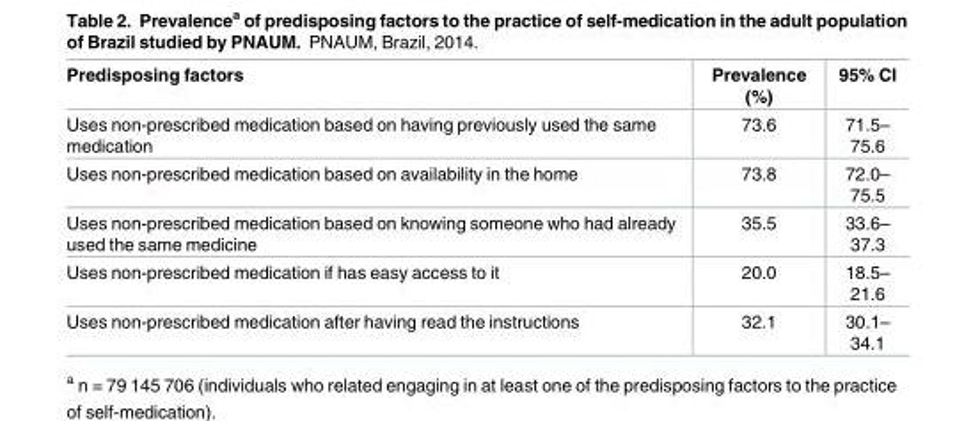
<table><thead><tr><td>Predisposing factors</td><td>Prevalence (%)</td><td>95% CI</td></tr></thead><tbody><tr><td>Uses non-prescribed medication based on having previously used the same medication</td><td>73.6</td><td>71.5– 75.6</td></tr><tr><td>Uses non-prescribed medication based on availability in the home</td><td>73.8</td><td>72.0– 75.5</td></tr><tr><td>Uses non-prescribed medication based on knowing someone who had already used the same medicine</td><td>35.5</td><td>33.6– 37.3</td></tr><tr><td>Uses non-prescribed medication if has easy access to it</td><td>20.0</td><td>18.5– 21.6</td></tr><tr><td>Uses non-prescribed medication after having read the instructions</td><td>32.1</td><td>30.1– 34.1</td></tr></tbody></table>